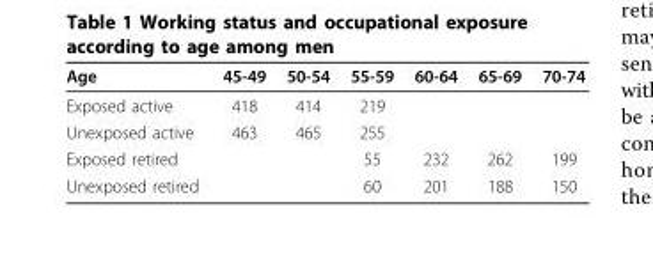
<table><thead><tr><td>Age</td><td>45-49</td><td>50-54</td><td>55-59</td><td>60-64</td><td>65-69</td><td>70-74</td></tr></thead><tbody><tr><td>Exposed active</td><td>418</td><td>414</td><td>219</td><td></td><td></td><td></td></tr><tr><td>Unexposed active</td><td>463</td><td>465</td><td>255</td><td></td><td></td><td></td></tr><tr><td>Exposed retired</td><td></td><td></td><td>55</td><td>232</td><td>262</td><td>199</td></tr><tr><td>Unexposed retired</td><td></td><td></td><td>60</td><td>201</td><td>188</td><td>150</td></tr></tbody></table>